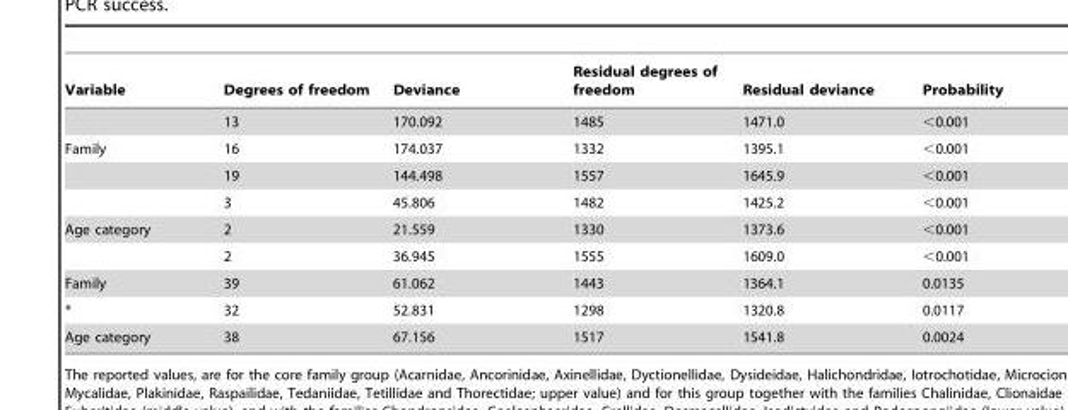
<table><thead><tr><td>Variable</td><td>Degrees of freedom</td><td>Deviance</td><td>Residual degrees of freedom</td><td>Residual deviance</td><td>Probability</td></tr></thead><tbody><tr><td></td><td>13</td><td>170.092</td><td>1485</td><td>1471.0</td><td>&lt;0.001</td></tr><tr><td rowspan="3">Family</td><td>16</td><td>174.037</td><td>1332</td><td>1395.1</td><td>&lt;0.001</td></tr><tr><td>19</td><td>144.498</td><td>1557</td><td>1645.9</td><td>&lt;0.001</td></tr><tr><td>3</td><td>45.806</td><td>1482</td><td>1425.2</td><td>&lt;0.001</td></tr><tr><td rowspan="2">Age category</td><td>2</td><td>21.559</td><td>1330</td><td>1373.6</td><td>&lt;0.001</td></tr><tr><td>2</td><td>36.945</td><td>1555</td><td>1609.0</td><td>&lt;0.001</td></tr><tr><td>Family</td><td>39</td><td>61.062</td><td>1443</td><td>1364.1</td><td>0.0135</td></tr><tr><td>*</td><td>32</td><td>52.831</td><td>1298</td><td>1320.8</td><td>0.0117</td></tr><tr><td>Age category</td><td>38</td><td>67.156</td><td>1517</td><td>1541.8</td><td>0.0024</td></tr></tbody></table>